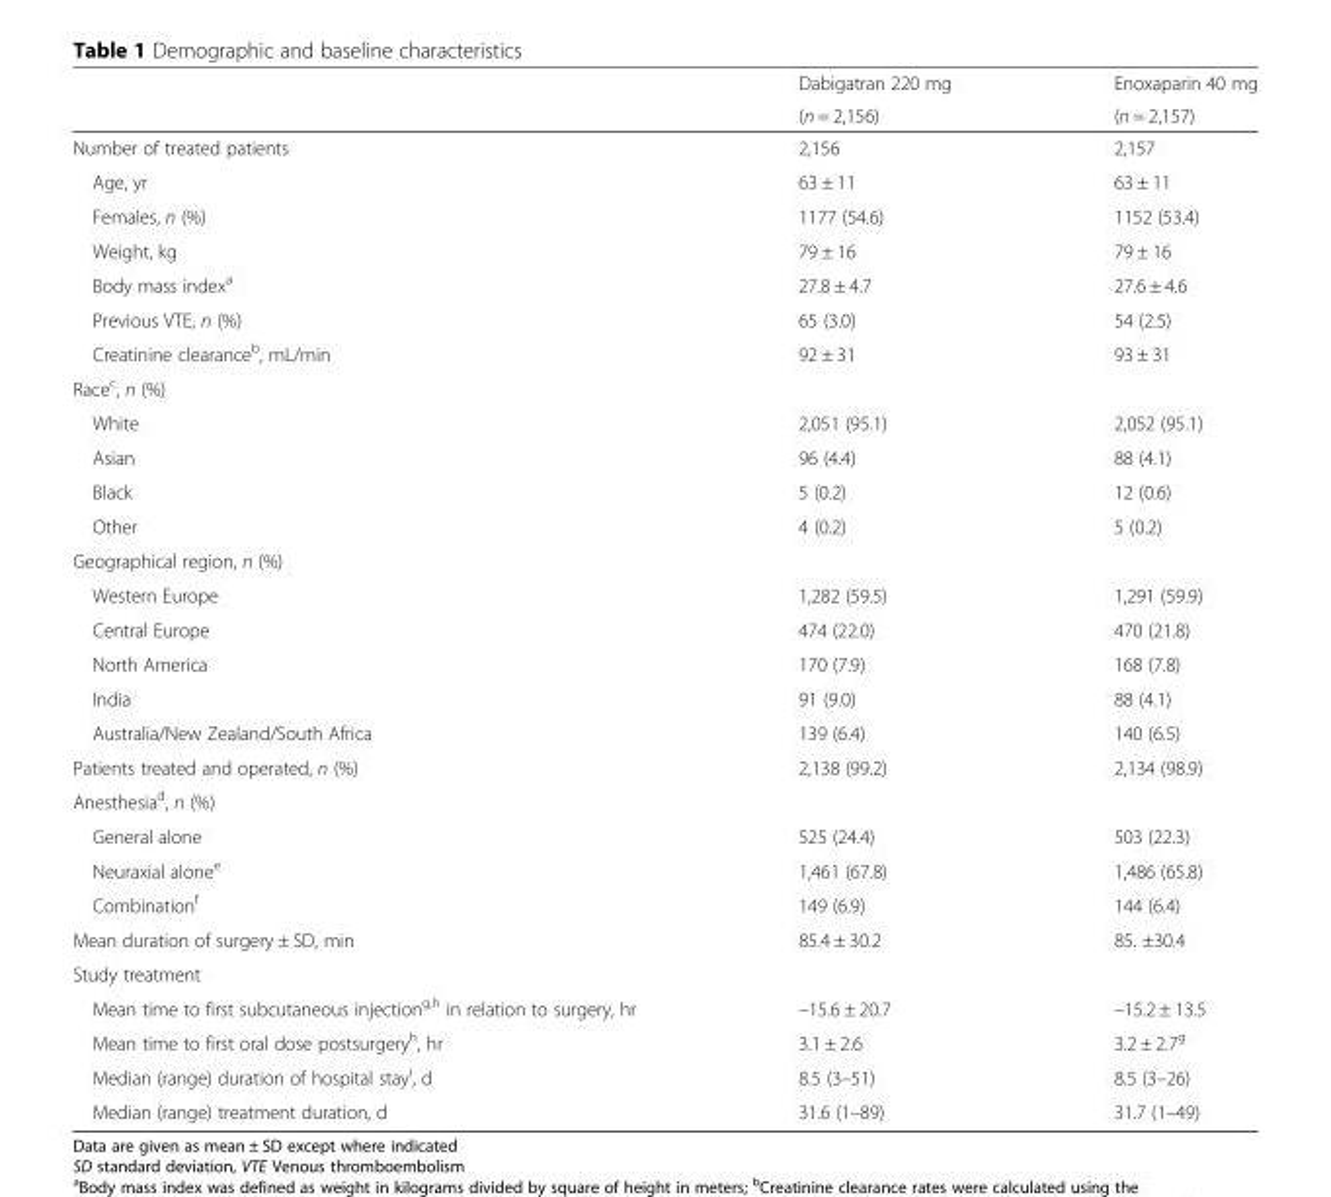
<table><thead><tr><td rowspan="2"></td><td rowspan="2">Dabigatran 220 mg (n = 2,156)</td><td rowspan="2">Enoxaparin 40 mg (n = 2,157)</td></tr><tr></tr></thead><tbody><tr><td>Number of treated patients</td><td>2,156</td><td>2,157</td></tr><tr><td>Age, yr</td><td>63 ± 11</td><td>63 ± 11</td></tr><tr><td>Females, n (%)</td><td>1177 (54.6)</td><td>1152 (53.4)</td></tr><tr><td>Weight, kg</td><td>79 ± 16</td><td>79 ± 16</td></tr><tr><td>Body mass index<sup>a</sup></td><td>27.8 ± 4.7</td><td>27.6 ± 4.6</td></tr><tr><td>Previous VTE, n (%)</td><td>65 (3.0)</td><td>54 (2.5)</td></tr><tr><td>Creatinine clearance<sup>b</sup>, mL/min</td><td>92 ± 31</td><td>93 ± 31</td></tr><tr><td colspan="3">Race<sup>c</sup>, n (%)</td></tr><tr><td>White</td><td>2,051 (95.1)</td><td>2,052 (95.1)</td></tr><tr><td>Asian</td><td>96 (4.4)</td><td>88 (4.1)</td></tr><tr><td>Black</td><td>5 (0.2)</td><td>12 (0.6)</td></tr><tr><td>Other</td><td>4 (0.2)</td><td>5 (0.2)</td></tr><tr><td colspan="3">Geographical region, n (%)</td></tr><tr><td>Western Europe</td><td>1,282 (59.5)</td><td>1,291 (59.9)</td></tr><tr><td>Central Europe</td><td>474 (22.0)</td><td>470 (21.8)</td></tr><tr><td>North America</td><td>170 (7.9)</td><td>168 (7.8)</td></tr><tr><td>India</td><td>91 (9.0)</td><td>88 (4.1)</td></tr><tr><td>Australia/New Zealand/South Africa</td><td>139 (6.4)</td><td>140 (6.5)</td></tr><tr><td>Patients treated and operated, n (%)</td><td>2,138 (99.2)</td><td>2,134 (98.9)</td></tr><tr><td colspan="3">Anesthesia<sup>d</sup>, n (%)</td></tr><tr><td>General alone</td><td>525 (24.4)</td><td>503 (22.3)</td></tr><tr><td>Neuraxial alone<sup>e</sup></td><td>1,461 (67.8)</td><td>1,486 (65.8)</td></tr><tr><td>Combination<sup>f</sup></td><td>149 (6.9)</td><td>144 (6.4)</td></tr><tr><td>Mean duration of surgery ± SD, min</td><td>85.4 ± 30.2</td><td>85. ±30.4</td></tr><tr><td colspan="3">Study treatment</td></tr><tr><td>Mean time to first subcutaneous injection<sup>g,h</sup> in relation to surgery, hr</td><td>–15.6 ± 20.7</td><td>–15.2 ± 13.5</td></tr><tr><td>Mean time to first oral dose postsurgery<sup>h</sup>, hr</td><td>3.1 ± 2.6</td><td>3.2 ± 2.7<sup>g</sup></td></tr><tr><td>Median (range) duration of hospital stay<sup>i</sup>, d</td><td>8.5 (3–51)</td><td>8.5 (3–26)</td></tr><tr><td>Median (range) treatment duration, d</td><td>31.6 (1–89)</td><td>31.7 (1–49)</td></tr></tbody></table>